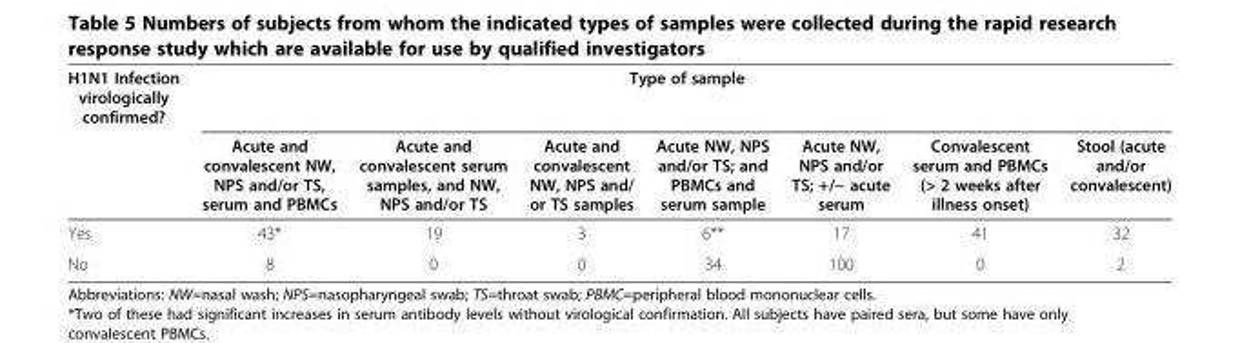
<table><thead><tr><td rowspan="2">H1N1 Infection virologically confirmed?</td><td colspan="7">Type of sample</td></tr><tr><td>Acute and convalescent NW, NPS and/or TS, serum and PBMCs</td><td>Acute and convalescent serum samples, and NW, NPS and/or TS</td><td>Acute and convalescent NW, NPS and/ or TS samples</td><td>Acute NW, NPS and/or TS; and PBMCs and serum sample</td><td>Acute NW, NPS and/or TS; +/− acute serum</td><td>Convalescent serum and PBMCs (&gt; 2 weeks after illness onset)</td><td>Stool (acute and/or convalescent)</td></tr></thead><tbody><tr><td>Yes</td><td>43*</td><td>19</td><td>3</td><td>6**</td><td>17</td><td>41</td><td>32</td></tr><tr><td>No</td><td>8</td><td>0</td><td>0</td><td>34</td><td>100</td><td>0</td><td>2</td></tr></tbody></table>